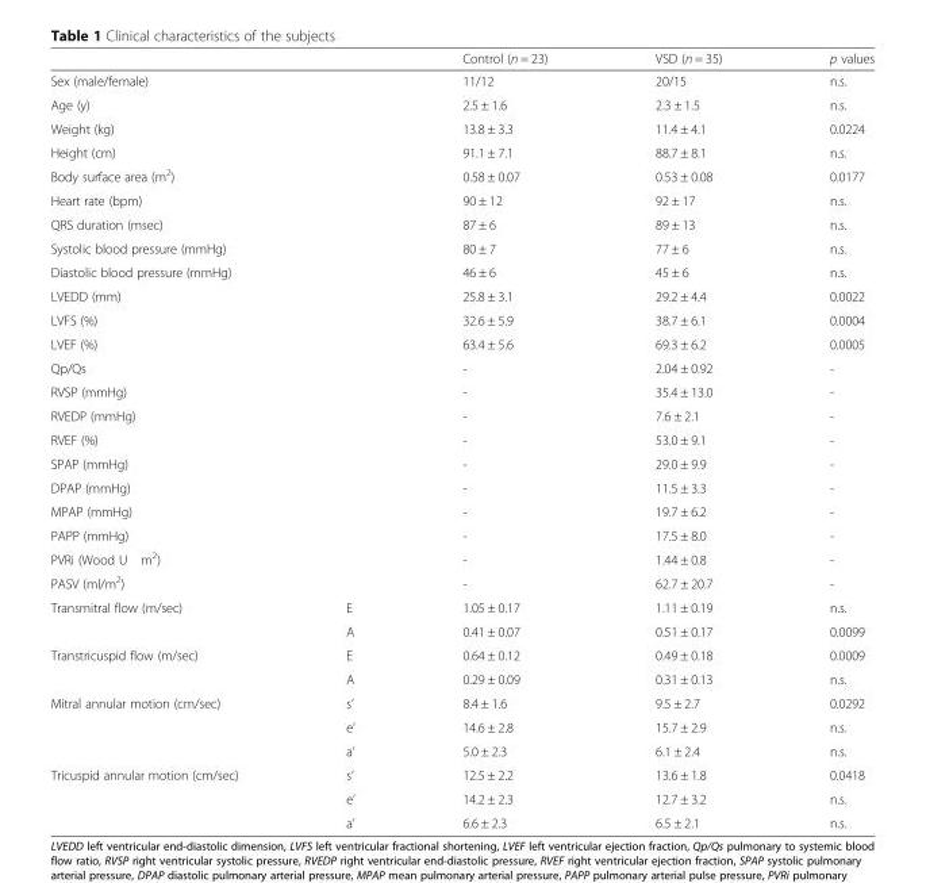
<table><thead><tr><td></td><td></td><td>Control (n = 23)</td><td>VSD (n = 35)</td><td>p values</td></tr></thead><tbody><tr><td>Sex (male/female)</td><td></td><td>11/12</td><td>20/15</td><td>n.s.</td></tr><tr><td>Age (y)</td><td></td><td>2.5 ± 1.6</td><td>2.3 ± 1.5</td><td>n.s.</td></tr><tr><td>Weight (kg)</td><td></td><td>13.8 ± 3.3</td><td>11.4 ± 4.1</td><td>0.0224</td></tr><tr><td>Height (cm)</td><td></td><td>91.1 ± 7.1</td><td>88.7 ± 8.1</td><td>n.s.</td></tr><tr><td>Body surface area (m<sup>2</sup>)</td><td></td><td>0.58 ± 0.07</td><td>0.53 ± 0.08</td><td>0.0177</td></tr><tr><td>Heart rate (bpm)</td><td></td><td>90 ± 12</td><td>92 ± 17</td><td>n.s.</td></tr><tr><td>QRS duration (msec)</td><td></td><td>87 ± 6</td><td>89 ± 13</td><td>n.s.</td></tr><tr><td>Systolic blood pressure (mmHg)</td><td></td><td>80 ± 7</td><td>77 ± 6</td><td>n.s.</td></tr><tr><td>Diastolic blood pressure (mmHg)</td><td></td><td>46 ± 6</td><td>45 ± 6</td><td>n.s.</td></tr><tr><td>LVEDD (mm)</td><td></td><td>25.8 ± 3.1</td><td>29.2 ± 4.4</td><td>0.0022</td></tr><tr><td>LVFS (%)</td><td></td><td>32.6 ± 5.9</td><td>38.7 ± 6.1</td><td>0.0004</td></tr><tr><td>LVEF (%)</td><td></td><td>63.4 ± 5.6</td><td>69.3 ± 6.2</td><td>0.0005</td></tr><tr><td>Qp/Qs</td><td></td><td>-</td><td>2.04 ± 0.92</td><td>-</td></tr><tr><td>RVSP (mmHg)</td><td></td><td>-</td><td>35.4 ± 13.0</td><td>-</td></tr><tr><td>RVEDP (mmHg)</td><td></td><td>-</td><td>7.6 ± 2.1</td><td>-</td></tr><tr><td>RVEF (%)</td><td></td><td>-</td><td>53.0 ± 9.1</td><td>-</td></tr><tr><td>SPAP (mmHg)</td><td></td><td>-</td><td>29.0 ± 9.9</td><td>-</td></tr><tr><td>DPAP (mmHg)</td><td></td><td>-</td><td>11.5 ± 3.3</td><td>-</td></tr><tr><td>MPAP (mmHg)</td><td></td><td>-</td><td>19.7 ± 6.2</td><td>-</td></tr><tr><td>PAPP (mmHg)</td><td></td><td>-</td><td>17.5 ± 8.0</td><td>-</td></tr><tr><td>PVRi (Wood U m2)</td><td></td><td>-</td><td>1.44 ± 0.8</td><td>-</td></tr><tr><td>PASV (ml/m<sup>2</sup>)</td><td></td><td>-</td><td>62.7 ± 20.7</td><td>-</td></tr><tr><td rowspan="2">Transmitral flow (m/sec)</td><td>E</td><td>1.05 ± 0.17</td><td>1.11 ± 0.19</td><td>n.s.</td></tr><tr><td>A</td><td>0.41 ± 0.07</td><td>0.51 ± 0.17</td><td>0.0099</td></tr><tr><td rowspan="2">Transtricuspid flow (m/sec)</td><td>E</td><td>0.64 ± 0.12</td><td>0.49 ± 0.18</td><td>0.0009</td></tr><tr><td>A</td><td>0.29 ± 0.09</td><td>0.31 ± 0.13</td><td>n.s.</td></tr><tr><td rowspan="3">Mitral annular motion (cm/sec)</td><td>s’</td><td>8.4 ± 1.6</td><td>9.5 ± 2.7</td><td>0.0292</td></tr><tr><td>e’</td><td>14.6 ± 2.8</td><td>15.7 ± 2.9</td><td>n.s.</td></tr><tr><td>a’</td><td>5.0 ± 2.3</td><td>6.1 ± 2.4</td><td>n.s.</td></tr><tr><td rowspan="3">Tricuspid annular motion (cm/sec)</td><td>s’</td><td>12.5 ± 2.2</td><td>13.6 ± 1.8</td><td>0.0418</td></tr><tr><td>e’</td><td>14.2 ± 2.3</td><td>12.7 ± 3.2</td><td>n.s.</td></tr><tr><td>a’</td><td>6.6 ± 2.3</td><td>6.5 ± 2.1</td><td>n.s.</td></tr></tbody></table>